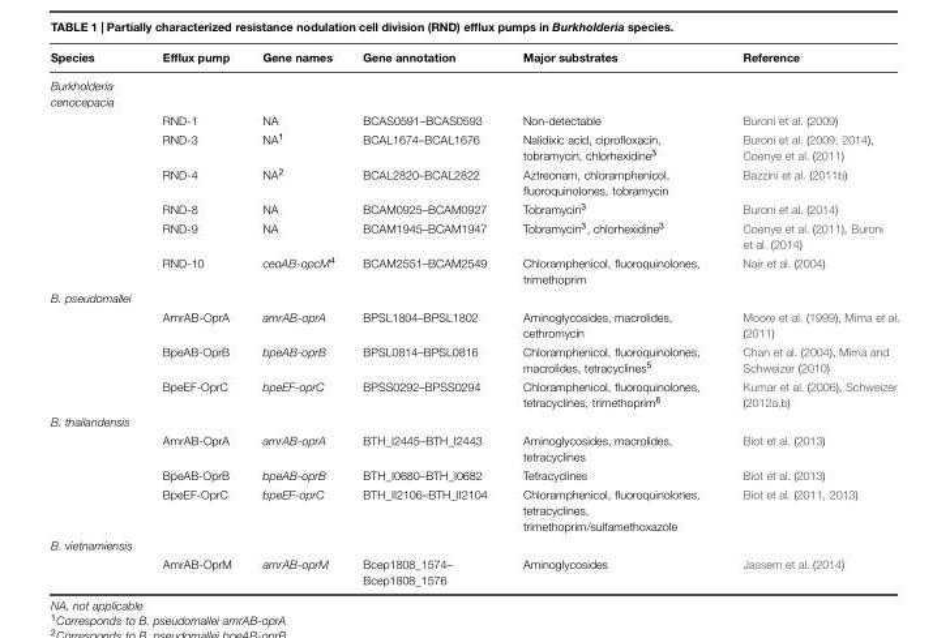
<table><thead><tr><td>Species</td><td>Efflux pump</td><td>Gene names</td><td>Gene annotation</td><td>Major substrates</td><td>Reference</td></tr></thead><tbody><tr><td colspan="6">Burkholderia cenocepacia</td></tr><tr><td></td><td>RND-1</td><td>NA</td><td>BCAS0591–BCAS0593</td><td>Non-detectable</td><td>Buroni et al. (2009)</td></tr><tr><td></td><td>RND-3</td><td>NA<sup>1</sup></td><td>BCAL1674–BCAL1676</td><td>Nalidixic acid, ciprofloxacin, tobramycin, chlorhexidine<sup>3</sup></td><td>Buroni et al. (2009, 2014), Coenye et al. (2011)</td></tr><tr><td></td><td>RND-4</td><td>NA<sup>2</sup></td><td>BCAL2820–BCAL2822</td><td>Aztreonam, chloramphenicol, fluoroquinolones, tobramycin</td><td>Bazzini et al. (2011b)</td></tr><tr><td></td><td>RND-8</td><td>NA</td><td>BCAM0925–BCAM0927</td><td>Tobramycin<sup>3</sup></td><td>Buroni et al. (2014)</td></tr><tr><td></td><td>RND-9</td><td>NA</td><td>BCAM1945–BCAM1947</td><td>Tobramycin<sup>3</sup>, chlorhexidine<sup>3</sup></td><td>Coenye et al. (2011), Buroni et al. (2014)</td></tr><tr><td></td><td>RND-10</td><td>ceoAB-opcM<sup>4</sup></td><td>BCAM2551–BCAM2549</td><td>Chloramphenicol, fluoroquinolones, trimethoprim</td><td>Nair et al. (2004)</td></tr><tr><td colspan="6">B. pseudomallei</td></tr><tr><td></td><td>AmrAB-OprA</td><td>amrAB-oprA</td><td>BPSL1804–BPSL1802</td><td>Aminoglycosides, macrolides, cethromycin</td><td>Moore et al. (1999), Mima et al. (2011)</td></tr><tr><td></td><td>BpeAB-OprB</td><td>bpeAB-oprB</td><td>BPSL0814–BPSL0816</td><td>Chloramphenicol, fluoroquinolones, macrolides, tetracyclines<sup>5</sup></td><td>Chan et al. (2004), Mima and Schweizer (2010)</td></tr><tr><td></td><td>BpeEF-OprC</td><td>bpeEF-oprC</td><td>BPSS0292–BPSS0294</td><td>Chloramphenicol, fluoroquinolones, tetracyclines, trimethoprim<sup>6</sup></td><td>Kumar et al. (2006), Schweizer (2012a,b)</td></tr><tr><td colspan="6">B. thailandensis</td></tr><tr><td></td><td>AmrAB-OprA</td><td>amrAB-oprA</td><td>BTH_I2445–BTH_I2443</td><td>Aminoglycosides, macrolides, tetracyclines</td><td>Biot et al. (2013)</td></tr><tr><td></td><td>BpeAB-OprB</td><td>bpeAB-oprB</td><td>BTH_I0680–BTH_I0682</td><td>Tetracyclines</td><td>Biot et al. (2013)</td></tr><tr><td></td><td>BpeEF-OprC</td><td>bpeEF-oprC</td><td>BTH_II2106–BTH_II2104</td><td>Chloramphenicol, fluoroquinolones, tetracyclines, trimethoprim/sulfamethoxazole</td><td>Biot et al. (2011, 2013)</td></tr><tr><td colspan="6">B. vietnamiensis</td></tr><tr><td></td><td>AmrAB-OprM</td><td>amrAB-oprM</td><td>Bcep1808_1574– Bcep1808_1576</td><td>Aminoglycosides</td><td>Jassem et al. (2014)</td></tr></tbody></table>